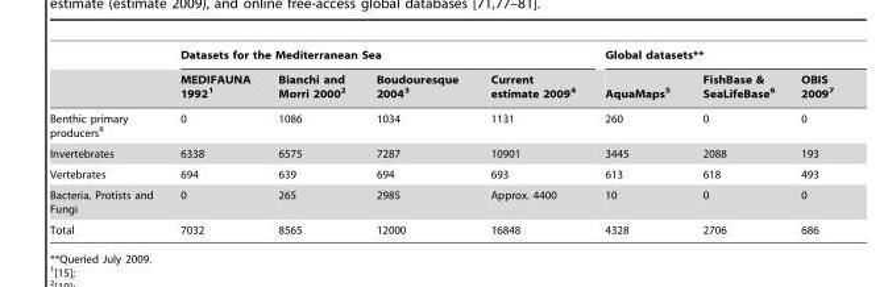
<table><thead><tr><td rowspan="2"></td><td colspan="4">Datasets for the Mediterranean Sea</td><td colspan="3">Global datasets**</td></tr><tr><td>MEDIFAUNA 1992<sup>1</sup></td><td>Bianchi and Morri 2000<sup>2</sup></td><td>Boudouresque 2004<sup>3</sup></td><td>Current estimate 2009<sup>4</sup></td><td>AquaMaps<sup>5</sup></td><td>FishBase &amp; SeaLifeBase<sup>6</sup></td><td>OBIS 2009<sup>7</sup></td></tr></thead><tbody><tr><td>Benthic primary producers<sup>8</sup></td><td>0</td><td>1086</td><td>1034</td><td>1131</td><td>260</td><td>0</td><td>0</td></tr><tr><td>Invertebrates</td><td>6338</td><td>6575</td><td>7287</td><td>10901</td><td>3445</td><td>2088</td><td>193</td></tr><tr><td>Vertebrates</td><td>694</td><td>639</td><td>694</td><td>693</td><td>613</td><td>618</td><td>493</td></tr><tr><td>Bacteria, Protists and Fungi</td><td>0</td><td>265</td><td>2985</td><td>Approx. 4400</td><td>10</td><td>0</td><td>0</td></tr><tr><td>Total</td><td>7032</td><td>8565</td><td>12000</td><td>16848</td><td>4328</td><td>2706</td><td>686</td></tr></tbody></table>